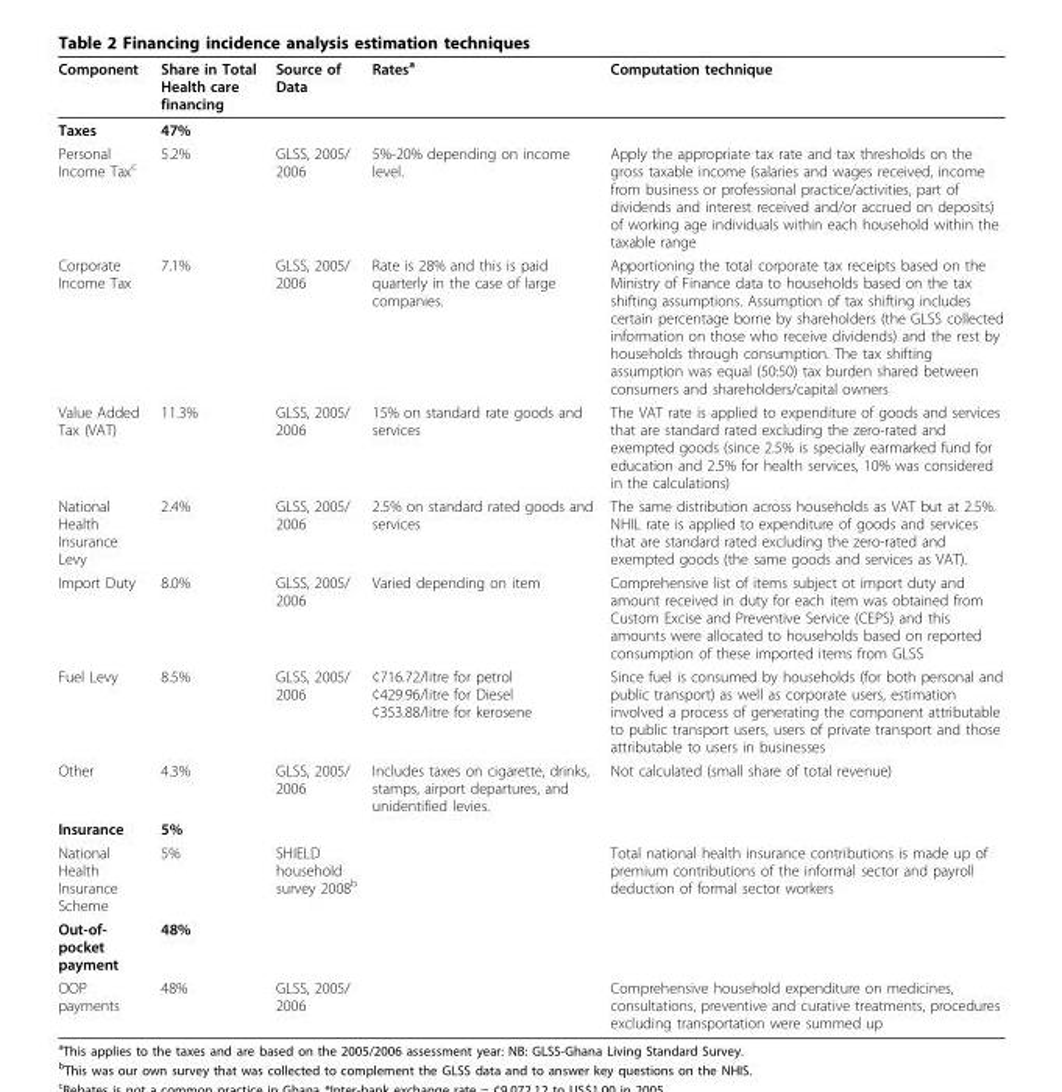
<table><thead><tr><td>Component</td><td>Share in Total Health care financing</td><td>Source of Data</td><td>Rates<sup>a</sup></td><td>Computation technique</td></tr></thead><tbody><tr><td>Taxes</td><td>47%</td><td></td><td></td><td></td></tr><tr><td>Personal Income Tax<sup>c</sup></td><td>5.2%</td><td>GLSS, 2005/ 2006</td><td>5%-20% depending on income level.</td><td>Apply the appropriate tax rate and tax thresholds on the gross taxable income (salaries and wages received, income from business or professional practice/activities, part of dividends and interest received and/or accrued on deposits) of working age individuals within each household within the taxable range</td></tr><tr><td>Corporate Income Tax</td><td>7.1%</td><td>GLSS, 2005/ 2006</td><td>Rate is 28% and this is paid quarterly in the case of large companies.</td><td>Apportioning the total corporate tax receipts based on the Ministry of Finance data to households based on the tax shifting assumptions. Assumption of tax shifting includes certain percentage borne by shareholders (the GLSS collected information on those who receive dividends) and the rest by households through consumption. The tax shifting assumption was equal (50:50) tax burden shared between consumers and shareholders/capital owners</td></tr><tr><td>Value Added Tax (VAT)</td><td>11.3%</td><td>GLSS, 2005/ 2006</td><td>15% on standard rate goods and services</td><td>The VAT rate is applied to expenditure of goods and services that are standard rated excluding the zero-rated and exempted goods (since 2.5% is specially earmarked fund for education and 2.5% for health services, 10% was considered in the calculations)</td></tr><tr><td>National Health Insurance Levy</td><td>2.4%</td><td>GLSS, 2005/ 2006</td><td>2.5% on standard rated goods and services</td><td>The same distribution across households as VAT but at 2.5%. NHIL rate is applied to expenditure of goods and services that are standard rated excluding the zero-rated and exempted goods (the same goods and services as VAT).</td></tr><tr><td>Import Duty</td><td>8.0%</td><td>GLSS, 2005/ 2006</td><td>Varied depending on item</td><td>Comprehensive list of items subject ot import duty and amount received in duty for each item was obtained from Custom Excise and Preventive Service (CEPS) and this amounts were allocated to households based on reported consumption of these imported items from GLSS</td></tr><tr><td>Fuel Levy</td><td>8.5%</td><td>GLSS, 2005/ 2006</td><td>¢716.72/litre for petrol ¢429.96/litre for Diesel ¢353.88/litre for kerosene</td><td>Since fuel is consumed by households (for both personal and public transport) as well as corporate users, estimation involved a process of generating the component attributable to public transport users, users of private transport and those attributable to users in businesses</td></tr><tr><td>Other</td><td>4.3%</td><td>GLSS, 2005/ 2006</td><td>Includes taxes on cigarette, drinks, stamps, airport departures, and unidentified levies.</td><td>Not calculated (small share of total revenue)</td></tr><tr><td>Insurance</td><td>5%</td><td></td><td></td><td></td></tr><tr><td>National Health Insurance Scheme</td><td>5%</td><td>SHIELD household survey 2008<sup>b</sup></td><td></td><td>Total national health insurance contributions is made up of premium contributions of the informal sector and payroll deduction of formal sector workers</td></tr><tr><td>Out-of- pocket payment</td><td>48%</td><td></td><td></td><td></td></tr><tr><td>OOP payments</td><td>48%</td><td>GLSS, 2005/ 2006</td><td></td><td>Comprehensive household expenditure on medicines, consultations, preventive and curative treatments, procedures excluding transportation were summed up</td></tr></tbody></table>